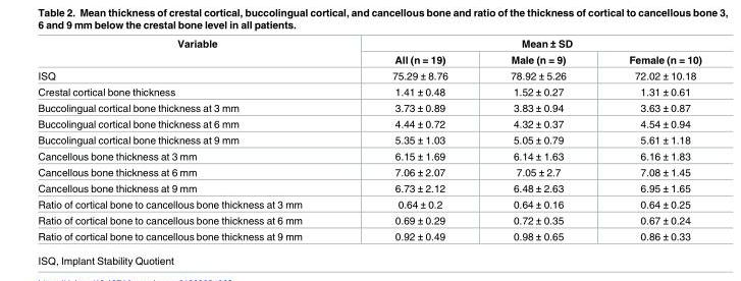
<table><thead><tr><td rowspan="2">Variable</td><td colspan="3">Mean ± SD</td></tr><tr><td>All (n = 19)</td><td>Male (n = 9)</td><td>Female (n = 10)</td></tr></thead><tbody><tr><td>ISQ</td><td>75.29 ± 8.76</td><td>78.92 ± 5.26</td><td>72.02 ± 10.18</td></tr><tr><td>Crestal cortical bone thickness</td><td>1.41 ± 0.48</td><td>1.52 ± 0.27</td><td>1.31 ± 0.61</td></tr><tr><td>Buccolingual cortical bone thickness at 3 mm</td><td>3.73 ± 0.89</td><td>3.83 ± 0.94</td><td>3.63 ± 0.87</td></tr><tr><td>Buccolingual cortical bone thickness at 6 mm</td><td>4.44 ± 0.72</td><td>4.32 ± 0.37</td><td>4.54 ± 0.94</td></tr><tr><td>Buccolingual cortical bone thickness at 9 mm</td><td>5.35 ± 1.03</td><td>5.05 ± 0.79</td><td>5.61 ± 1.18</td></tr><tr><td>Cancellous bone thickness at 3 mm</td><td>6.15 ± 1.69</td><td>6.14 ± 1.63</td><td>6.16 ± 1.83</td></tr><tr><td>Cancellous bone thickness at 6 mm</td><td>7.06 ± 2.07</td><td>7.05 ± 2.7</td><td>7.08 ± 1.45</td></tr><tr><td>Cancellous bone thickness at 9 mm</td><td>6.73 ± 2.12</td><td>6.48 ± 2.63</td><td>6.95 ± 1.65</td></tr><tr><td>Ratio of cortical bone to cancellous bone thickness at 3 mm</td><td>0.64 ± 0.2</td><td>0.64 ± 0.16</td><td>0.64 ± 0.25</td></tr><tr><td>Ratio of cortical bone to cancellous bone thickness at 6 mm</td><td>0.69 ± 0.29</td><td>0.72 ± 0.35</td><td>0.67 ± 0.24</td></tr><tr><td>Ratio of cortical bone to cancellous bone thickness at 9 mm</td><td>0.92 ± 0.49</td><td>0.98 ± 0.65</td><td>0.86 ± 0.33</td></tr></tbody></table>